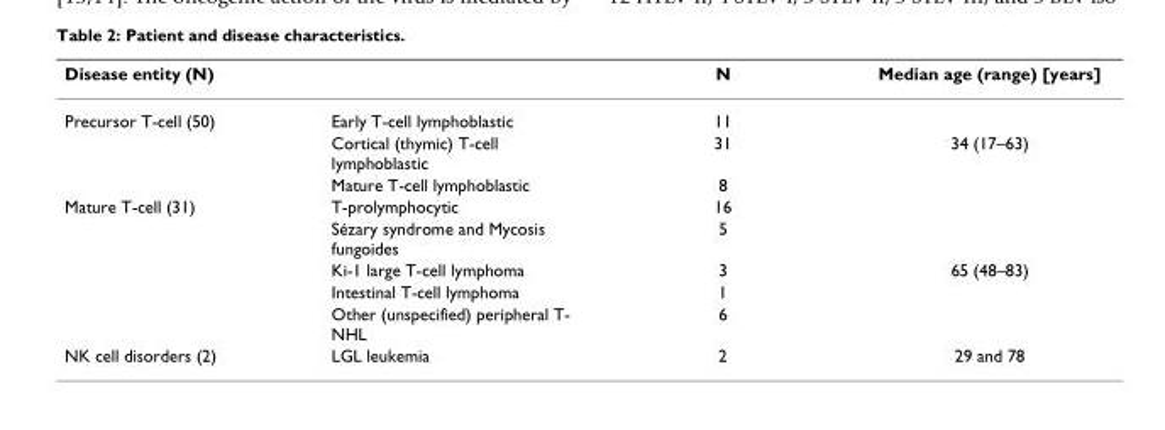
<table><thead><tr><td>Disease entity (N)</td><td></td><td>N</td><td>Median age (range) [years]</td></tr></thead><tbody><tr><td rowspan="3">Precursor T-cell (50)</td><td>Early T-cell lymphoblastic</td><td>11</td><td></td></tr><tr><td>Cortical (thymic) T-cell lymphoblastic</td><td>31</td><td>34 (17–63)</td></tr><tr><td>Mature T-cell lymphoblastic</td><td>8</td><td></td></tr><tr><td rowspan="5">Mature T-cell (31)</td><td>T-prolymphocytic</td><td>16</td><td></td></tr><tr><td>Sézary syndrome and Mycosis fungoides</td><td>5</td><td></td></tr><tr><td>Ki-1 large T-cell lymphoma</td><td>3</td><td>65 (48–83)</td></tr><tr><td>Intestinal T-cell lymphoma</td><td>1</td><td></td></tr><tr><td>Other (unspecified) peripheral T- NHL</td><td>6</td><td></td></tr><tr><td>NK cell disorders (2)</td><td>LGL leukemia</td><td>2</td><td>29 and 78</td></tr></tbody></table>